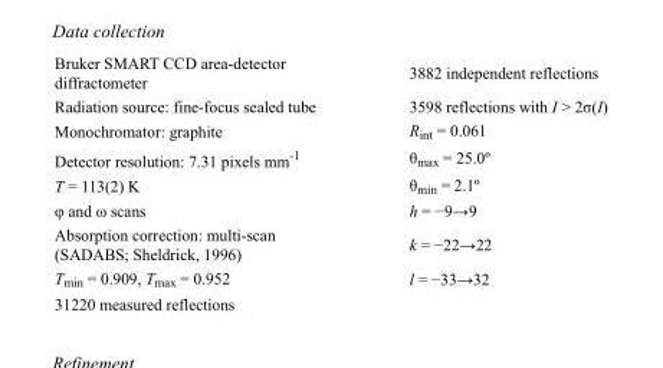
<table><tbody><tr><td>Bruker SMART CCD area-detector diffractometer</td><td>3882 independent reflections</td></tr><tr><td>Radiation source: fine-focus sealed tube</td><td>3598 reflections with I &gt; 2σ(I)</td></tr><tr><td>Monochromator: graphite</td><td>Rint = 0.061</td></tr><tr><td>Detector resolution: 7.31 pixels mm-1</td><td>θmax = 25.0º</td></tr><tr><td>T = 113(2) K</td><td>θmin = 2.1º</td></tr><tr><td>φ and ω scans</td><td>h = −9→9</td></tr><tr><td>Absorption correction: multi-scan (SADABS; Sheldrick, 1996)</td><td>k = −22→22</td></tr><tr><td>Tmin = 0.909, Tmax = 0.952</td><td>l = −33→32</td></tr><tr><td>31220 measured reflections</td><td></td></tr></tbody></table>